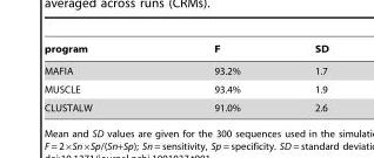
<table><thead><tr><td>program</td><td>F</td><td>SD</td></tr></thead><tbody><tr><td>MAFIA</td><td>93.2%</td><td>1.7</td></tr><tr><td>MUSCLE</td><td>93.4%</td><td>1.9</td></tr><tr><td>CLUSTALW</td><td>91.0%</td><td>2.6</td></tr></tbody></table>